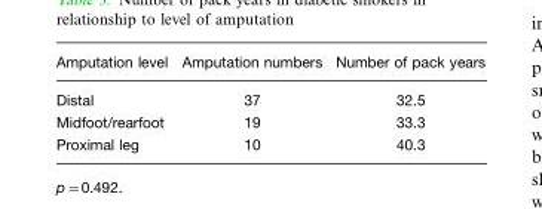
<table><thead><tr><td>Amputation level</td><td>Amputation numbers</td><td>Number of pack years</td></tr></thead><tbody><tr><td>Distal</td><td>37</td><td>32.5</td></tr><tr><td>Midfoot/rearfoot</td><td>19</td><td>33.3</td></tr><tr><td>Proximal leg</td><td>10</td><td>40.3</td></tr></tbody></table>